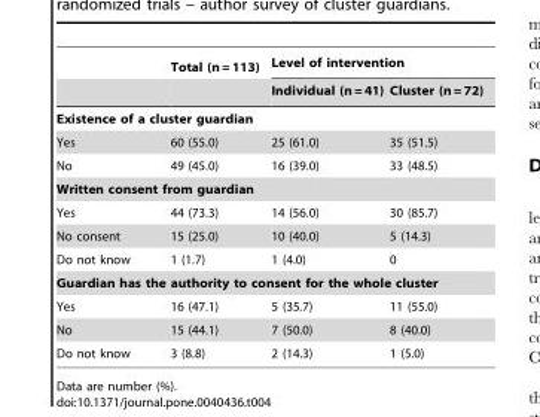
<table><thead><tr><td rowspan="2"></td><td rowspan="2">Total (n = 113)</td><td colspan="2">Level of intervention</td></tr><tr><td>Individual (n = 41)</td><td>Cluster (n = 72)</td></tr></thead><tbody><tr><td colspan="4">Existence of a cluster guardian</td></tr><tr><td>Yes</td><td>60 (55.0)</td><td>25 (61.0)</td><td>35 (51.5)</td></tr><tr><td>No</td><td>49 (45.0)</td><td>16 (39.0)</td><td>33 (48.5)</td></tr><tr><td colspan="4">Written consent from guardian</td></tr><tr><td>Yes</td><td>44 (73.3)</td><td>14 (56.0)</td><td>30 (85.7)</td></tr><tr><td>No consent</td><td>15 (25.0)</td><td>10 (40.0)</td><td>5 (14.3)</td></tr><tr><td>Do not know</td><td>1 (1.7)</td><td>1 (4.0)</td><td>0</td></tr><tr><td colspan="4">Guardian has the authority to consent for the whole cluster</td></tr><tr><td>Yes</td><td>16 (47.1)</td><td>5 (35.7)</td><td>11 (55.0)</td></tr><tr><td>No</td><td>15 (44.1)</td><td>7 (50.0)</td><td>8 (40.0)</td></tr><tr><td>Do not know</td><td>3 (8.8)</td><td>2 (14.3)</td><td>1 (5.0)</td></tr></tbody></table>